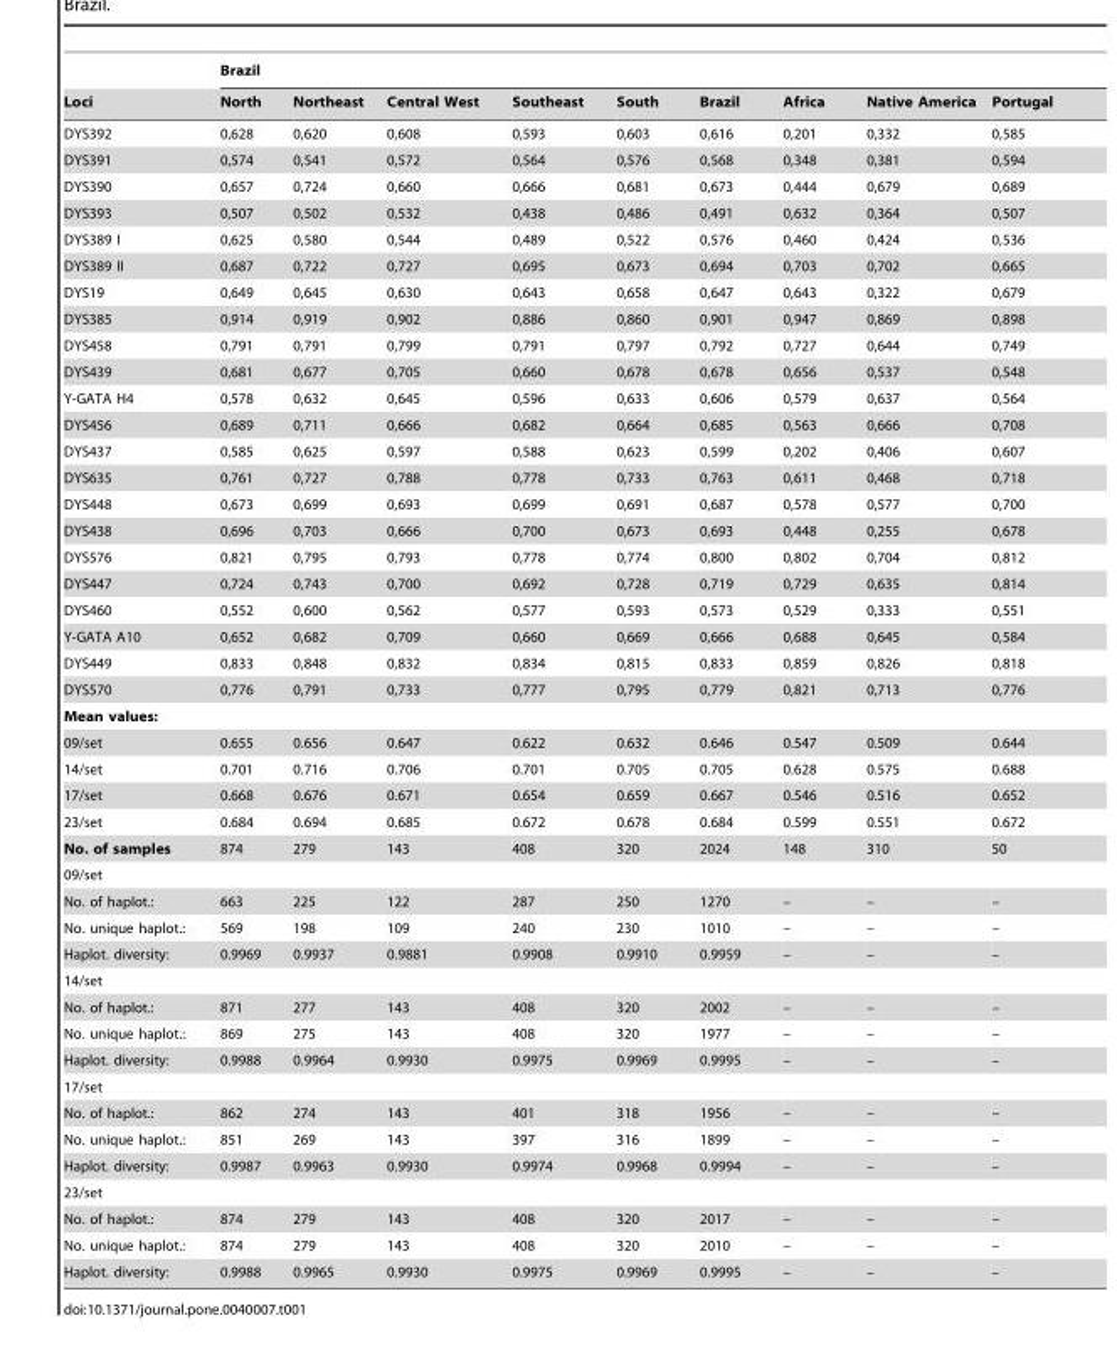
<table><thead><tr><td rowspan="2">Loci</td><td colspan="9">Brazil</td></tr><tr><td>North</td><td>Northeast</td><td>Central West</td><td>Southeast</td><td>South</td><td>Brazil</td><td>Africa</td><td>Native America</td><td>Portugal</td></tr></thead><tbody><tr><td>DYS392</td><td>0,628</td><td>0,620</td><td>0,608</td><td>0,593</td><td>0,603</td><td>0,616</td><td>0,201</td><td>0,332</td><td>0,585</td></tr><tr><td>DYS391</td><td>0,574</td><td>0,541</td><td>0,572</td><td>0,564</td><td>0,576</td><td>0,568</td><td>0,348</td><td>0,381</td><td>0,594</td></tr><tr><td>DYS390</td><td>0,657</td><td>0,724</td><td>0,660</td><td>0,666</td><td>0,681</td><td>0,673</td><td>0,444</td><td>0,679</td><td>0,689</td></tr><tr><td>DYS393</td><td>0,507</td><td>0,502</td><td>0,532</td><td>0,438</td><td>0,486</td><td>0,491</td><td>0,632</td><td>0,364</td><td>0,507</td></tr><tr><td>DYS389 I</td><td>0,625</td><td>0,580</td><td>0,544</td><td>0,489</td><td>0,522</td><td>0,576</td><td>0,460</td><td>0,424</td><td>0,536</td></tr><tr><td>DYS389 II</td><td>0,687</td><td>0,722</td><td>0,727</td><td>0,695</td><td>0,673</td><td>0,694</td><td>0,703</td><td>0,702</td><td>0,665</td></tr><tr><td>DYS19</td><td>0,649</td><td>0,645</td><td>0,630</td><td>0,643</td><td>0,658</td><td>0,647</td><td>0,643</td><td>0,322</td><td>0,679</td></tr><tr><td>DYS385</td><td>0,914</td><td>0,919</td><td>0,902</td><td>0,886</td><td>0,860</td><td>0,901</td><td>0,947</td><td>0,869</td><td>0,898</td></tr><tr><td>DYS458</td><td>0,791</td><td>0,791</td><td>0,799</td><td>0,791</td><td>0,797</td><td>0,792</td><td>0,727</td><td>0,644</td><td>0,749</td></tr><tr><td>DYS439</td><td>0,681</td><td>0,677</td><td>0,705</td><td>0,660</td><td>0,678</td><td>0,678</td><td>0,656</td><td>0,537</td><td>0,548</td></tr><tr><td>Y-GATA H4</td><td>0,578</td><td>0,632</td><td>0,645</td><td>0,596</td><td>0,633</td><td>0,606</td><td>0,579</td><td>0,637</td><td>0,564</td></tr><tr><td>DYS456</td><td>0,689</td><td>0,711</td><td>0,666</td><td>0,682</td><td>0,664</td><td>0,685</td><td>0,563</td><td>0,666</td><td>0,708</td></tr><tr><td>DYS437</td><td>0,585</td><td>0,625</td><td>0,597</td><td>0,588</td><td>0,623</td><td>0,599</td><td>0,202</td><td>0,406</td><td>0,607</td></tr><tr><td>DYS635</td><td>0,761</td><td>0,727</td><td>0,788</td><td>0,778</td><td>0,733</td><td>0,763</td><td>0,611</td><td>0,468</td><td>0,718</td></tr><tr><td>DYS448</td><td>0,673</td><td>0,699</td><td>0,693</td><td>0,699</td><td>0,691</td><td>0,687</td><td>0,578</td><td>0,577</td><td>0,700</td></tr><tr><td>DYS438</td><td>0,696</td><td>0,703</td><td>0,666</td><td>0,700</td><td>0,673</td><td>0,693</td><td>0,448</td><td>0,255</td><td>0,678</td></tr><tr><td>DYS576</td><td>0,821</td><td>0,795</td><td>0,793</td><td>0,778</td><td>0,774</td><td>0,800</td><td>0,802</td><td>0,704</td><td>0,812</td></tr><tr><td>DYS447</td><td>0,724</td><td>0,743</td><td>0,700</td><td>0,692</td><td>0,728</td><td>0,719</td><td>0,729</td><td>0,635</td><td>0,814</td></tr><tr><td>DYS460</td><td>0,552</td><td>0,600</td><td>0,562</td><td>0,577</td><td>0,593</td><td>0,573</td><td>0,529</td><td>0,333</td><td>0,551</td></tr><tr><td>Y-GATA A10</td><td>0,652</td><td>0,682</td><td>0,709</td><td>0,660</td><td>0,669</td><td>0,666</td><td>0,688</td><td>0,645</td><td>0,584</td></tr><tr><td>DYS449</td><td>0,833</td><td>0,848</td><td>0,832</td><td>0,834</td><td>0,815</td><td>0,833</td><td>0,859</td><td>0,826</td><td>0,818</td></tr><tr><td>DYS570</td><td>0,776</td><td>0,791</td><td>0,733</td><td>0,777</td><td>0,795</td><td>0,779</td><td>0,821</td><td>0,713</td><td>0,776</td></tr><tr><td colspan="10">Mean values:</td></tr><tr><td>09/set</td><td>0.655</td><td>0.656</td><td>0.647</td><td>0.622</td><td>0.632</td><td>0.646</td><td>0.547</td><td>0.509</td><td>0.644</td></tr><tr><td>14/set</td><td>0.701</td><td>0.716</td><td>0.706</td><td>0.701</td><td>0.705</td><td>0.705</td><td>0.628</td><td>0.575</td><td>0.688</td></tr><tr><td>17/set</td><td>0.668</td><td>0.676</td><td>0.671</td><td>0.654</td><td>0.659</td><td>0.667</td><td>0.546</td><td>0.516</td><td>0.652</td></tr><tr><td>23/set</td><td>0.684</td><td>0.694</td><td>0.685</td><td>0.672</td><td>0.678</td><td>0.684</td><td>0.599</td><td>0.551</td><td>0.672</td></tr><tr><td>No. of samples</td><td>874</td><td>279</td><td>143</td><td>408</td><td>320</td><td>2024</td><td>148</td><td>310</td><td>50</td></tr><tr><td colspan="10">09/set</td></tr><tr><td>No. of haplot.:</td><td>663</td><td>225</td><td>122</td><td>287</td><td>250</td><td>1270</td><td>–</td><td>–</td><td>–</td></tr><tr><td>No. unique haplot.:</td><td>569</td><td>198</td><td>109</td><td>240</td><td>230</td><td>1010</td><td>–</td><td>–</td><td>–</td></tr><tr><td>Haplot. diversity:</td><td>0.9969</td><td>0.9937</td><td>0.9881</td><td>0.9908</td><td>0.9910</td><td>0.9959</td><td>–</td><td>–</td><td>–</td></tr><tr><td colspan="10">14/set</td></tr><tr><td>No. of haplot.:</td><td>871</td><td>277</td><td>143</td><td>408</td><td>320</td><td>2002</td><td>–</td><td>–</td><td>–</td></tr><tr><td>No. unique haplot.:</td><td>869</td><td>275</td><td>143</td><td>408</td><td>320</td><td>1977</td><td>–</td><td>–</td><td>–</td></tr><tr><td>Haplot. diversity:</td><td>0.9988</td><td>0.9964</td><td>0.9930</td><td>0.9975</td><td>0.9969</td><td>0.9995</td><td>–</td><td>–</td><td>–</td></tr><tr><td colspan="10">17/set</td></tr><tr><td>No. of haplot.:</td><td>862</td><td>274</td><td>143</td><td>401</td><td>318</td><td>1956</td><td>–</td><td>–</td><td>–</td></tr><tr><td>No. unique haplot.:</td><td>851</td><td>269</td><td>143</td><td>397</td><td>316</td><td>1899</td><td>–</td><td>–</td><td>–</td></tr><tr><td>Haplot. diversity:</td><td>0.9987</td><td>0.9963</td><td>0.9930</td><td>0.9974</td><td>0.9968</td><td>0.9994</td><td>–</td><td>–</td><td>–</td></tr><tr><td colspan="10">23/set</td></tr><tr><td>No. of haplot.:</td><td>874</td><td>279</td><td>143</td><td>408</td><td>320</td><td>2017</td><td>–</td><td>–</td><td>–</td></tr><tr><td>No. unique haplot.:</td><td>874</td><td>279</td><td>143</td><td>408</td><td>320</td><td>2010</td><td>–</td><td>–</td><td>–</td></tr><tr><td>Haplot. diversity:</td><td>0.9988</td><td>0.9965</td><td>0.9930</td><td>0.9975</td><td>0.9969</td><td>0.9995</td><td>–</td><td>–</td><td>–</td></tr></tbody></table>